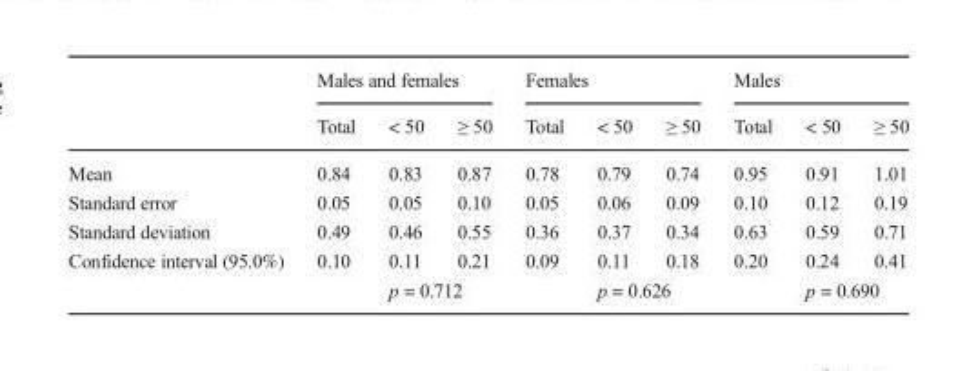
<table><thead><tr><td rowspan="2"></td><td colspan="3">Males and females</td><td colspan="3">Females</td><td colspan="3">Males</td></tr><tr><td>Total</td><td>&lt; 50</td><td>≥ 50</td><td>Total</td><td>&lt; 50</td><td>≥ 50</td><td>Total</td><td>&lt; 50</td><td>≥ 50</td></tr></thead><tbody><tr><td>Mean</td><td>0.84</td><td>0.83</td><td>0.87</td><td>0.78</td><td>0.79</td><td>0.74</td><td>0.95</td><td>0.91</td><td>1.01</td></tr><tr><td>Standard error</td><td>0.05</td><td>0.05</td><td>0.10</td><td>0.05</td><td>0.06</td><td>0.09</td><td>0.10</td><td>0.12</td><td>0.19</td></tr><tr><td>Standard deviation</td><td>0.49</td><td>0.46</td><td>0.55</td><td>0.36</td><td>0.37</td><td>0.34</td><td>0.63</td><td>0.59</td><td>0.71</td></tr><tr><td rowspan="2">Confidence interval (95.0%)</td><td>0.10</td><td>0.11</td><td>0.21</td><td>0.09</td><td>0.11</td><td>0.18</td><td>0.20</td><td>0.24</td><td>0.41</td></tr><tr><td></td><td colspan="2">p = 0.712</td><td></td><td colspan="2">p = 0.626</td><td></td><td colspan="2">p = 0.690</td></tr></tbody></table>